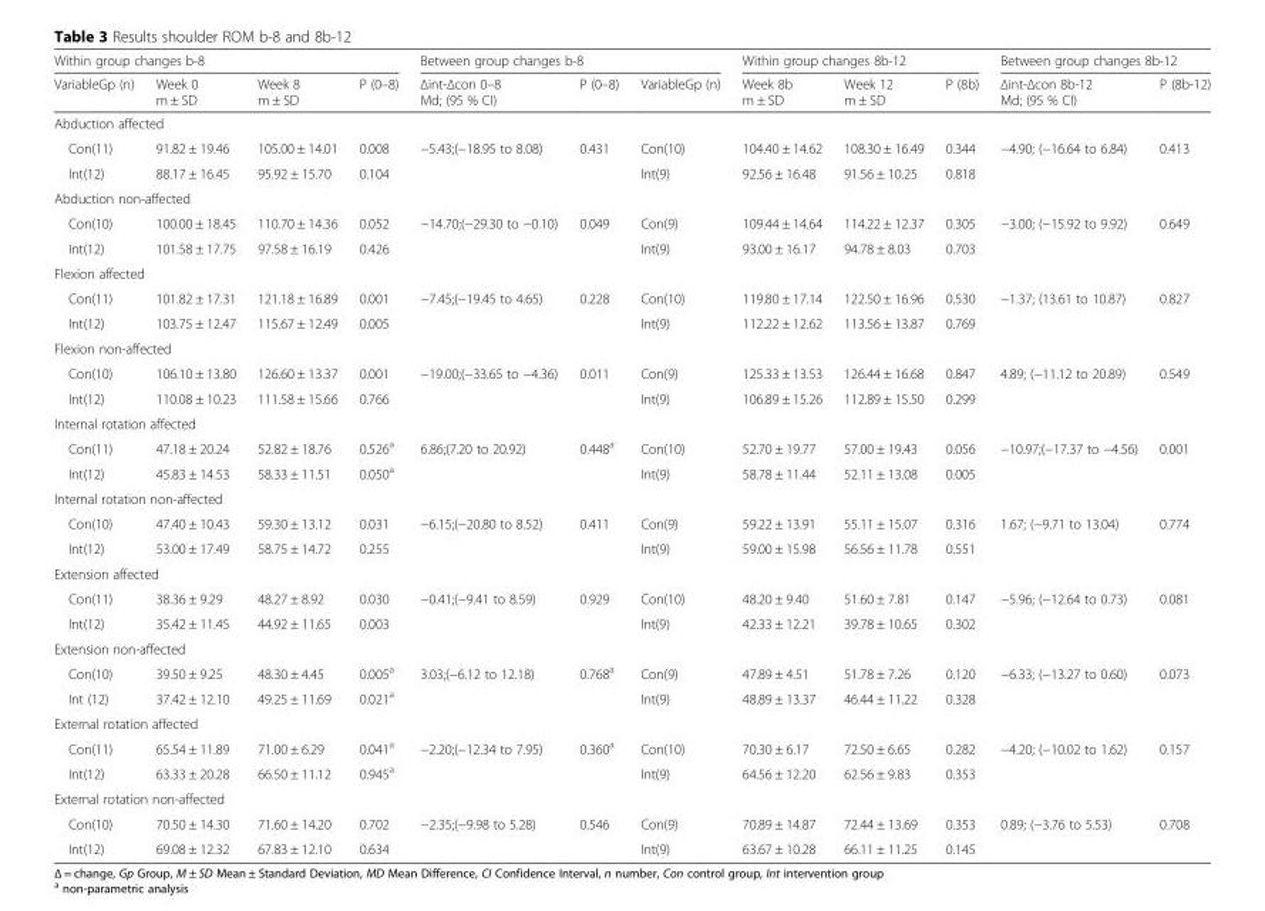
<table><thead><tr><td colspan="4">Within group changes b-8</td><td colspan="3">Between group changes b-8</td><td colspan="3">Within group changes 8b-12</td><td colspan="2">Between group changes 8b-12</td></tr><tr><td>VariableGp (n)</td><td>Week 0 m ± SD</td><td>Week 8 m ± SD</td><td>P (0–8)</td><td>Δint-Δcon 0–8 Md; (95 % CI)</td><td>P (0–8)</td><td>VariableGp (n)</td><td>Week 8b m ± SD</td><td>Week 12 m ± SD</td><td>P (8b)</td><td>Δint-Δcon 8b-12 Md; (95 % CI)</td><td>P (8b-12)</td></tr></thead><tbody><tr><td colspan="12">Abduction affected</td></tr><tr><td>Con(11)</td><td>91.82 ± 19.46</td><td>105.00 ± 14.01</td><td>0.008</td><td rowspan="2">−5.43;(−18.95 to 8.08)</td><td rowspan="2">0.431</td><td>Con(10)</td><td>104.40 ± 14.62</td><td>108.30 ± 16.49</td><td>0.344</td><td rowspan="2">−4.90; (−16.64 to 6.84)</td><td rowspan="2">0.413</td></tr><tr><td>Int(12)</td><td>88.17 ± 16.45</td><td>95.92 ± 15.70</td><td>0.104</td><td>Int(9)</td><td>92.56 ± 16.48</td><td>91.56 ± 10.25</td><td>0.818</td></tr><tr><td colspan="12">Abduction non-affected</td></tr><tr><td>Con(10)</td><td>100.00 ± 18.45</td><td>110.70 ± 14.36</td><td>0.052</td><td rowspan="2">−14.70;(−29.30 to −0.10)</td><td rowspan="2">0.049</td><td>Con(9)</td><td>109.44 ± 14.64</td><td>114.22 ± 12.37</td><td>0.305</td><td rowspan="2">−3.00; (−15.92 to 9.92)</td><td rowspan="2">0.649</td></tr><tr><td>Int(12)</td><td>101.58 ± 17.75</td><td>97.58 ± 16.19</td><td>0.426</td><td>Int(9)</td><td>93.00 ± 16.17</td><td>94.78 ± 8.03</td><td>0.703</td></tr><tr><td colspan="12">Flexion affected</td></tr><tr><td>Con(11)</td><td>101.82 ± 17.31</td><td>121.18 ± 16.89</td><td>0.001</td><td rowspan="2">−7.45;(−19.45 to 4.65)</td><td rowspan="2">0.228</td><td>Con(10)</td><td>119.80 ± 17.14</td><td>122.50 ± 16.96</td><td>0.530</td><td rowspan="2">−1.37; (13.61 to 10.87)</td><td rowspan="2">0.827</td></tr><tr><td>Int(12)</td><td>103.75 ± 12.47</td><td>115.67 ± 12.49</td><td>0.005</td><td>Int(9)</td><td>112.22 ± 12.62</td><td>113.56 ± 13.87</td><td>0.769</td></tr><tr><td colspan="12">Flexion non-affected</td></tr><tr><td>Con(10)</td><td>106.10 ± 13.80</td><td>126.60 ± 13.37</td><td>0.001</td><td rowspan="2">−19.00;(−33.65 to −4.36)</td><td rowspan="2">0.011</td><td>Con(9)</td><td>125.33 ± 13.53</td><td>126.44 ± 16.68</td><td>0.847</td><td rowspan="2">4.89; (−11.12 to 20.89)</td><td rowspan="2">0.549</td></tr><tr><td>Int(12)</td><td>110.08 ± 10.23</td><td>111.58 ± 15.66</td><td>0.766</td><td>Int(9)</td><td>106.89 ± 15.26</td><td>112.89 ± 15.50</td><td>0.299</td></tr><tr><td colspan="12">Internal rotation affected</td></tr><tr><td>Con(11)</td><td>47.18 ± 20.24</td><td>52.82 ± 18.76</td><td>0.526<sup>a</sup></td><td rowspan="2">6.86;(7.20 to 20.92)</td><td rowspan="2">0.448<sup>a</sup></td><td>Con(10)</td><td>52.70 ± 19.77</td><td>57.00 ± 19.43</td><td>0.056</td><td rowspan="2">−10.97;(−17.37 to −4.56)</td><td rowspan="2">0.001</td></tr><tr><td>Int(12)</td><td>45.83 ± 14.53</td><td>58.33 ± 11.51</td><td>0.050<sup>a</sup></td><td>Int(9)</td><td>58.78 ± 11.44</td><td>52.11 ± 13.08</td><td>0.005</td></tr><tr><td colspan="12">Internal rotation non-affected</td></tr><tr><td>Con(10)</td><td>47.40 ± 10.43</td><td>59.30 ± 13.12</td><td>0.031</td><td rowspan="2">−6.15;(−20.80 to 8.52)</td><td rowspan="2">0.411</td><td>Con(9)</td><td>59.22 ± 13.91</td><td>55.11 ± 15.07</td><td>0.316</td><td rowspan="2">1.67; (−9.71 to 13.04)</td><td rowspan="2">0.774</td></tr><tr><td>Int(12)</td><td>53.00 ± 17.49</td><td>58.75 ± 14.72</td><td>0.255</td><td>Int(9)</td><td>59.00 ± 15.98</td><td>56.56 ± 11.78</td><td>0.551</td></tr><tr><td colspan="12">Extension affected</td></tr><tr><td>Con(11)</td><td>38.36 ± 9.29</td><td>48.27 ± 8.92</td><td>0.030</td><td rowspan="2">−0.41;(−9.41 to 8.59)</td><td rowspan="2">0.929</td><td>Con(10)</td><td>48.20 ± 9.40</td><td>51.60 ± 7.81</td><td>0.147</td><td rowspan="2">−5.96; (−12.64 to 0.73)</td><td rowspan="2">0.081</td></tr><tr><td>Int(12)</td><td>35.42 ± 11.45</td><td>44.92 ± 11.65</td><td>0.003</td><td>Int(9)</td><td>42.33 ± 12.21</td><td>39.78 ± 10.65</td><td>0.302</td></tr><tr><td colspan="12">Extension non-affected</td></tr><tr><td>Con(10)</td><td>39.50 ± 9.25</td><td>48.30 ± 4.45</td><td>0.005<sup>a</sup></td><td rowspan="2">3.03;(−6.12 to 12.18)</td><td rowspan="2">0.768<sup>a</sup></td><td>Con(9)</td><td>47.89 ± 4.51</td><td>51.78 ± 7.26</td><td>0.120</td><td rowspan="2">−6.33; (−13.27 to 0.60)</td><td rowspan="2">0.073</td></tr><tr><td>Int (12)</td><td>37.42 ± 12.10</td><td>49.25 ± 11.69</td><td>0.021<sup>a</sup></td><td>Int(9)</td><td>48.89 ± 13.37</td><td>46.44 ± 11.22</td><td>0.328</td></tr><tr><td colspan="12">External rotation affected</td></tr><tr><td>Con(11)</td><td>65.54 ± 11.89</td><td>71.00 ± 6.29</td><td>0.041<sup>a</sup></td><td rowspan="2">−2.20;(−12.34 to 7.95)</td><td rowspan="2">0.360<sup>a</sup></td><td>Con(10)</td><td>70.30 ± 6.17</td><td>72.50 ± 6.65</td><td>0.282</td><td rowspan="2">−4.20; (−10.02 to 1.62)</td><td rowspan="2">0.157</td></tr><tr><td>Int(12)</td><td>63.33 ± 20.28</td><td>66.50 ± 11.12</td><td>0.945<sup>a</sup></td><td>Int(9)</td><td>64.56 ± 12.20</td><td>62.56 ± 9.83</td><td>0.353</td></tr><tr><td colspan="12">External rotation non-affected</td></tr><tr><td>Con(10)</td><td>70.50 ± 14.30</td><td>71.60 ± 14.20</td><td>0.702</td><td rowspan="2">−2.35;(−9.98 to 5.28)</td><td rowspan="2">0.546</td><td>Con(9)</td><td>70.89 ± 14.87</td><td>72.44 ± 13.69</td><td>0.353</td><td rowspan="2">0.89; (−3.76 to 5.53)</td><td rowspan="2">0.708</td></tr><tr><td>Int(12)</td><td>69.08 ± 12.32</td><td>67.83 ± 12.10</td><td>0.634</td><td>Int(9)</td><td>63.67 ± 10.28</td><td>66.11 ± 11.25</td><td>0.145</td></tr></tbody></table>